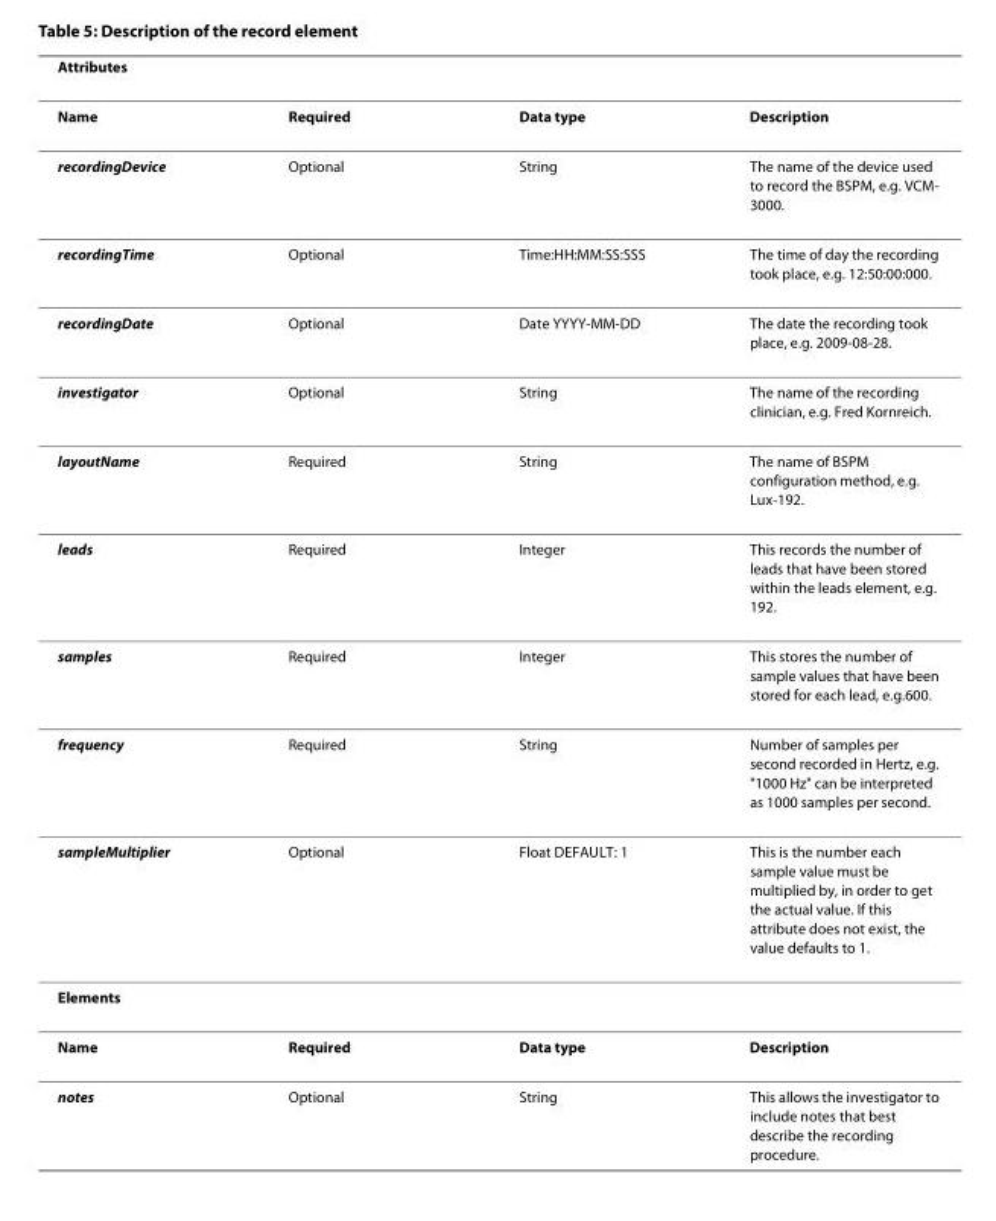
<table><thead><tr><td>Attributes</td><td></td><td></td><td></td></tr></thead><tbody><tr><td>Name</td><td>Required</td><td>Data type</td><td>Description</td></tr><tr><td>recordingDevice</td><td>Optional</td><td>String</td><td>The name of the device used to record the BSPM, e.g. VCM- 3000.</td></tr><tr><td>recordingTime</td><td>Optional</td><td>Time:HH:MM:SS:SSS</td><td>The time of day the recording took place, e.g. 12:50:00:000.</td></tr><tr><td>recordingDate</td><td>Optional</td><td>Date YYYY-MM-DD</td><td>The date the recording took place, e.g. 2009-08-28.</td></tr><tr><td>investigator</td><td>Optional</td><td>String</td><td>The name of the recording clinician, e.g. Fred Kornreich.</td></tr><tr><td>layoutName</td><td>Required</td><td>String</td><td>The name of BSPM configuration method, e.g. Lux-192.</td></tr><tr><td>leads</td><td>Required</td><td>Integer</td><td>This records the number of leads that have been stored within the leads element, e.g. 192.</td></tr><tr><td>samples</td><td>Required</td><td>Integer</td><td>This stores the number of sample values that have been stored for each lead, e.g.600.</td></tr><tr><td>frequency</td><td>Required</td><td>String</td><td>Number of samples per second recorded in Hertz, e.g. &quot;1000 Hz&quot; can be interpreted as 1000 samples per second.</td></tr><tr><td>sampleMultiplier</td><td>Optional</td><td>Float DEFAULT: 1</td><td>This is the number each sample value must be multiplied by, in order to get the actual value. If this attribute does not exist, the value defaults to 1.</td></tr><tr><td colspan="4">Elements</td></tr><tr><td>Name</td><td>Required</td><td>Data type</td><td>Description</td></tr><tr><td>notes</td><td>Optional</td><td>String</td><td>This allows the investigator to include notes that best describe the recording procedure.</td></tr></tbody></table>